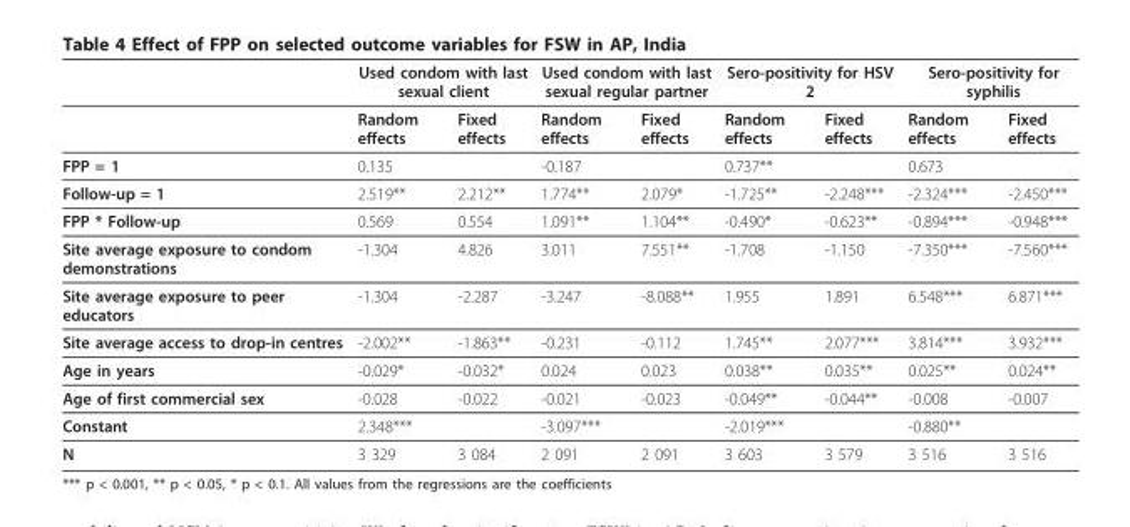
<table><thead><tr><td rowspan="2"></td><td colspan="2">Used condom with last sexual client</td><td colspan="2">Used condom with last sexual regular partner</td><td colspan="2">Sero-positivity for HSV 2</td><td colspan="2">Sero-positivity for syphilis</td></tr><tr><td>Random effects</td><td>Fixed effects</td><td>Random effects</td><td>Fixed effects</td><td>Random effects</td><td>Fixed effects</td><td>Random effects</td><td>Fixed effects</td></tr></thead><tbody><tr><td>FPP = 1</td><td>0.135</td><td></td><td>-0.187</td><td></td><td>0.737**</td><td></td><td>0.673</td><td></td></tr><tr><td>Follow-up = 1</td><td>2.519**</td><td>2.212**</td><td>1.774**</td><td>2.079*</td><td>-1.725**</td><td>-2.248***</td><td>-2.324***</td><td>-2.450***</td></tr><tr><td>FPP * Follow-up</td><td>0.569</td><td>0.554</td><td>1.091**</td><td>1.104**</td><td>-0.490*</td><td>-0.623**</td><td>-0.894***</td><td>-0.948***</td></tr><tr><td>Site average exposure to condom demonstrations</td><td>-1.304</td><td>4.826</td><td>3.011</td><td>7.551**</td><td>-1.708</td><td>-1.150</td><td>-7.350***</td><td>-7.560***</td></tr><tr><td>Site average exposure to peer educators</td><td>-1.304</td><td>-2.287</td><td>-3.247</td><td>-8.088**</td><td>1.955</td><td>1.891</td><td>6.548***</td><td>6.871***</td></tr><tr><td>Site average access to drop-in centres</td><td>-2.002**</td><td>-1.863**</td><td>-0.231</td><td>-0.112</td><td>1.745**</td><td>2.077***</td><td>3.814***</td><td>3.932***</td></tr><tr><td>Age in years</td><td>-0.029*</td><td>-0.032*</td><td>0.024</td><td>0.023</td><td>0.038**</td><td>0.035**</td><td>0.025**</td><td>0.024**</td></tr><tr><td>Age of first commercial sex</td><td>-0.028</td><td>-0.022</td><td>-0.021</td><td>-0.023</td><td>-0.049**</td><td>-0.044**</td><td>-0.008</td><td>-0.007</td></tr><tr><td>Constant</td><td>2.348***</td><td></td><td>-3.097***</td><td></td><td>-2.019***</td><td></td><td>-0.880**</td><td></td></tr><tr><td>N</td><td>3 329</td><td>3 084</td><td>2 091</td><td>2 091</td><td>3 603</td><td>3 579</td><td>3 516</td><td>3 516</td></tr></tbody></table>